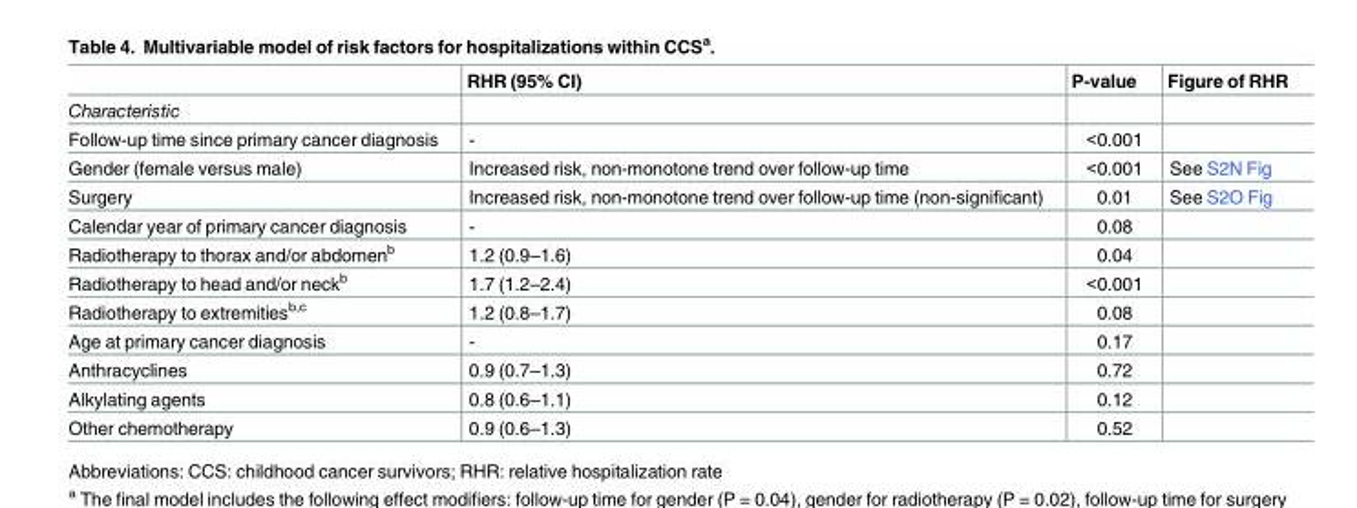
<table><thead><tr><td></td><td>RHR (95% CI)</td><td>P-value</td><td>Figure of RHR</td></tr></thead><tbody><tr><td colspan="4">Characteristic</td></tr><tr><td>Follow-up time since primary cancer diagnosis</td><td>-</td><td>&lt;0.001</td><td></td></tr><tr><td>Gender (female versus male)</td><td>Increased risk, non-monotone trend over follow-up time</td><td>&lt;0.001</td><td>See S2N Fig</td></tr><tr><td>Surgery</td><td>Increased risk, non-monotone trend over follow-up time (non-significant)</td><td>0.01</td><td>See S2O Fig</td></tr><tr><td>Calendar year of primary cancer diagnosis</td><td>-</td><td>0.08</td><td></td></tr><tr><td>Radiotherapy to thorax and/or abdomen<sup>b</sup></td><td>1.2 (0.9–1.6)</td><td>0.04</td><td></td></tr><tr><td>Radiotherapy to head and/or neck<sup>b</sup></td><td>1.7 (1.2–2.4)</td><td>&lt;0.001</td><td></td></tr><tr><td>Radiotherapy to extremities<sup>b,c</sup></td><td>1.2 (0.8–1.7)</td><td>0.08</td><td></td></tr><tr><td>Age at primary cancer diagnosis</td><td>-</td><td>0.17</td><td></td></tr><tr><td>Anthracyclines</td><td>0.9 (0.7–1.3)</td><td>0.72</td><td></td></tr><tr><td>Alkylating agents</td><td>0.8 (0.6–1.1)</td><td>0.12</td><td></td></tr><tr><td>Other chemotherapy</td><td>0.9 (0.6–1.3)</td><td>0.52</td><td></td></tr></tbody></table>